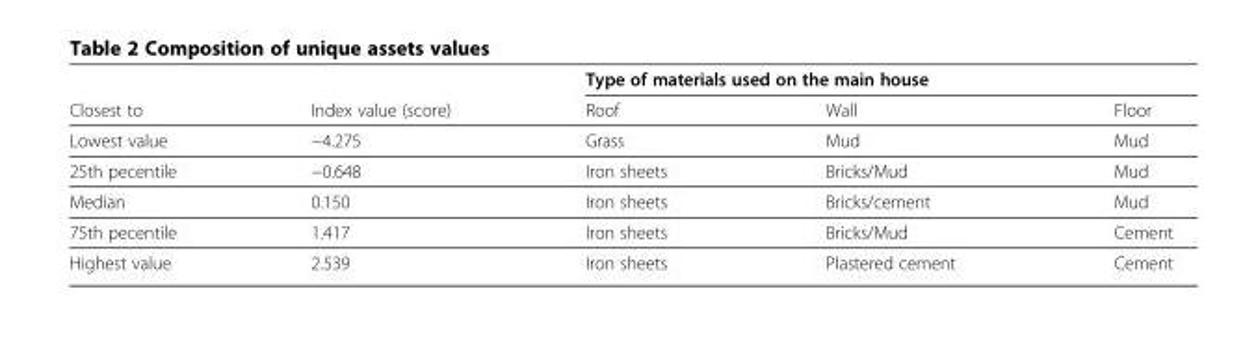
<table><thead><tr><td rowspan="2">Closest to</td><td rowspan="2">Index value (score)</td><td colspan="3">Type of materials used on the main house</td></tr><tr><td>Roof</td><td>Wall</td><td>Floor</td></tr></thead><tbody><tr><td>Lowest value</td><td>−4.275</td><td>Grass</td><td>Mud</td><td>Mud</td></tr><tr><td>25th pecentile</td><td>−0.648</td><td>Iron sheets</td><td>Bricks/Mud</td><td>Mud</td></tr><tr><td>Median</td><td>0.150</td><td>Iron sheets</td><td>Bricks/cement</td><td>Mud</td></tr><tr><td>75th pecentile</td><td>1.417</td><td>Iron sheets</td><td>Bricks/Mud</td><td>Cement</td></tr><tr><td>Highest value</td><td>2.539</td><td>Iron sheets</td><td>Plastered cement</td><td>Cement</td></tr></tbody></table>